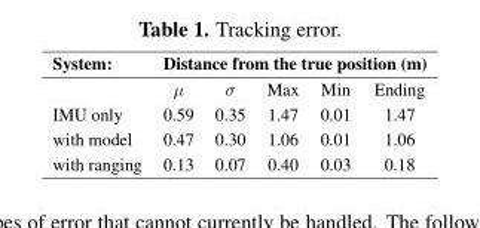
<table><thead><tr><td rowspan="2">System:</td><td colspan="5">Distance from the true position (m)</td></tr><tr><td>µ</td><td>σ</td><td>Max</td><td>Min</td><td>Ending</td></tr></thead><tbody><tr><td>IMU only</td><td>0.59</td><td>0.35</td><td>1.47</td><td>0.01</td><td>1.47</td></tr><tr><td>with model</td><td>0.47</td><td>0.30</td><td>1.06</td><td>0.01</td><td>1.06</td></tr><tr><td>with ranging</td><td>0.13</td><td>0.07</td><td>0.40</td><td>0.03</td><td>0.18</td></tr></tbody></table>